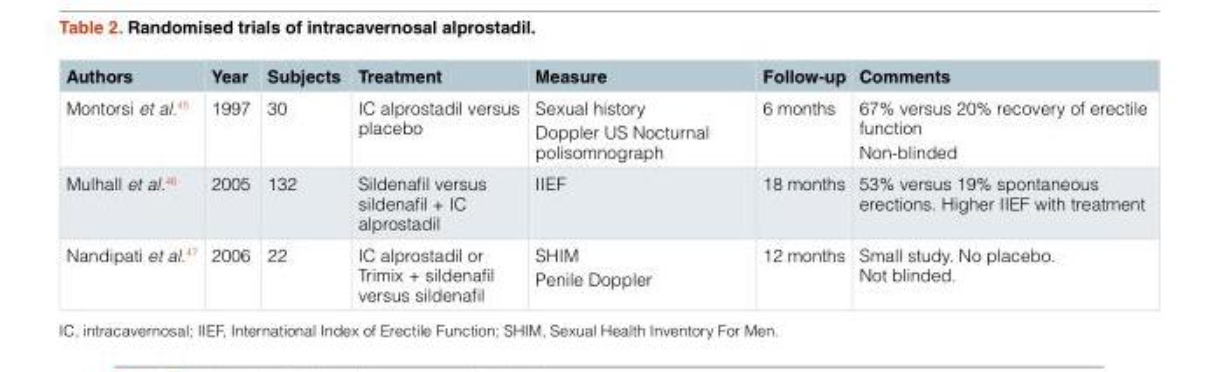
<table><thead><tr><td>Authors</td><td>Year</td><td>Subjects</td><td>Treatment</td><td>Measure</td><td>Follow-up</td><td>Comments</td></tr></thead><tbody><tr><td>Montorsi et al.<sup>45</sup></td><td>1997</td><td>30</td><td>IC alprostadil versus placebo</td><td>Sexual history Doppler US Nocturnal polisomnograph</td><td>6 months</td><td>67% versus 20% recovery of erectile function Non-blinded</td></tr><tr><td>Mulhall et al.<sup>46</sup></td><td>2005</td><td>132</td><td>Sildenafil versus sildenafil + IC alprostadil</td><td>IIEF</td><td>18 months</td><td>53% versus 19% spontaneous erections. Higher IIEF with treatment</td></tr><tr><td>Nandipati et al.<sup>47</sup></td><td>2006</td><td>22</td><td>IC alprostadil or Trimix + sildenafil versus sildenafil</td><td>SHIM Penile Doppler</td><td>12 months</td><td>Small study. No placebo. Not blinded.</td></tr></tbody></table>